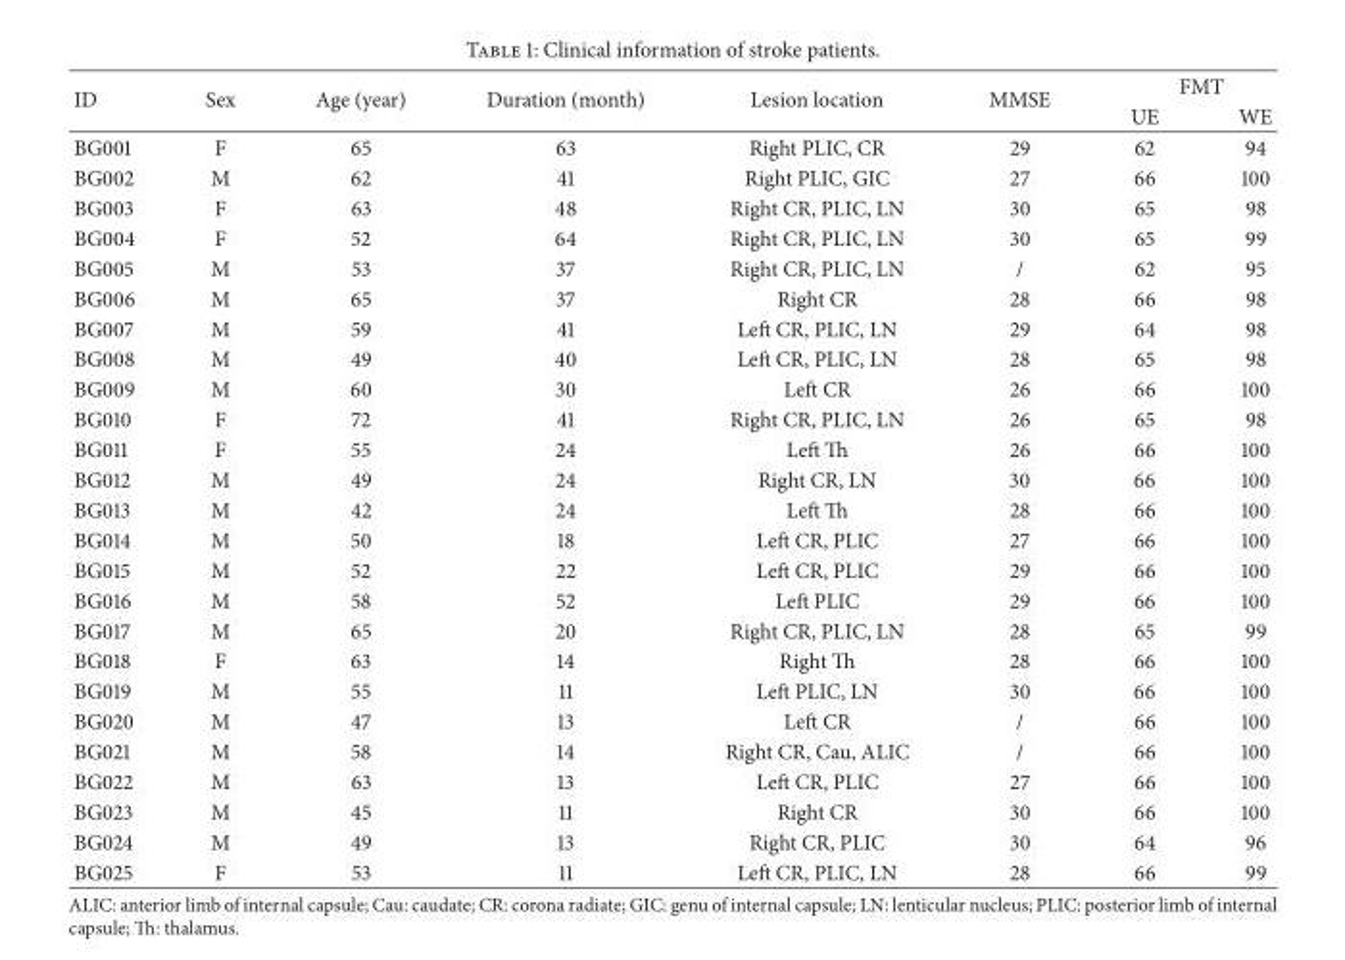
<table><thead><tr><td rowspan="2">ID</td><td rowspan="2">Sex</td><td rowspan="2">Age (year)</td><td rowspan="2">Duration (month)</td><td rowspan="2">Lesion location</td><td rowspan="2">MMSE</td><td colspan="2">FMT</td></tr><tr><td>UE</td><td>WE</td></tr></thead><tbody><tr><td>BG001</td><td>F</td><td>65</td><td>63</td><td>Right PLIC, CR</td><td>29</td><td>62</td><td>94</td></tr><tr><td>BG002</td><td>M</td><td>62</td><td>41</td><td>Right PLIC, GIC</td><td>27</td><td>66</td><td>100</td></tr><tr><td>BG003</td><td>F</td><td>63</td><td>48</td><td>Right CR, PLIC, LN</td><td>30</td><td>65</td><td>98</td></tr><tr><td>BG004</td><td>F</td><td>52</td><td>64</td><td>Right CR, PLIC, LN</td><td>30</td><td>65</td><td>99</td></tr><tr><td>BG005</td><td>M</td><td>53</td><td>37</td><td>Right CR, PLIC, LN</td><td>/</td><td>62</td><td>95</td></tr><tr><td>BG006</td><td>M</td><td>65</td><td>37</td><td>Right CR</td><td>28</td><td>66</td><td>98</td></tr><tr><td>BG007</td><td>M</td><td>59</td><td>41</td><td>Left CR, PLIC, LN</td><td>29</td><td>64</td><td>98</td></tr><tr><td>BG008</td><td>M</td><td>49</td><td>40</td><td>Left CR, PLIC, LN</td><td>28</td><td>65</td><td>98</td></tr><tr><td>BG009</td><td>M</td><td>60</td><td>30</td><td>Left CR</td><td>26</td><td>66</td><td>100</td></tr><tr><td>BG010</td><td>F</td><td>72</td><td>41</td><td>Right CR, PLIC, LN</td><td>26</td><td>65</td><td>98</td></tr><tr><td>BG011</td><td>F</td><td>55</td><td>24</td><td>Left Th</td><td>26</td><td>66</td><td>100</td></tr><tr><td>BG012</td><td>M</td><td>49</td><td>24</td><td>Right CR, LN</td><td>30</td><td>66</td><td>100</td></tr><tr><td>BG013</td><td>M</td><td>42</td><td>24</td><td>Left Th</td><td>28</td><td>66</td><td>100</td></tr><tr><td>BG014</td><td>M</td><td>50</td><td>18</td><td>Left CR, PLIC</td><td>27</td><td>66</td><td>100</td></tr><tr><td>BG015</td><td>M</td><td>52</td><td>22</td><td>Left CR, PLIC</td><td>29</td><td>66</td><td>100</td></tr><tr><td>BG016</td><td>M</td><td>58</td><td>52</td><td>Left PLIC</td><td>29</td><td>66</td><td>100</td></tr><tr><td>BG017</td><td>M</td><td>65</td><td>20</td><td>Right CR, PLIC, LN</td><td>28</td><td>65</td><td>99</td></tr><tr><td>BG018</td><td>F</td><td>63</td><td>14</td><td>Right Th</td><td>28</td><td>66</td><td>100</td></tr><tr><td>BG019</td><td>M</td><td>55</td><td>11</td><td>Left PLIC, LN</td><td>30</td><td>66</td><td>100</td></tr><tr><td>BG020</td><td>M</td><td>47</td><td>13</td><td>Left CR</td><td>/</td><td>66</td><td>100</td></tr><tr><td>BG021</td><td>M</td><td>58</td><td>14</td><td>Right CR, Cau, ALIC</td><td>/</td><td>66</td><td>100</td></tr><tr><td>BG022</td><td>M</td><td>63</td><td>13</td><td>Left CR, PLIC</td><td>27</td><td>66</td><td>100</td></tr><tr><td>BG023</td><td>M</td><td>45</td><td>11</td><td>Right CR</td><td>30</td><td>66</td><td>100</td></tr><tr><td>BG024</td><td>M</td><td>49</td><td>13</td><td>Right CR, PLIC</td><td>30</td><td>64</td><td>96</td></tr><tr><td>BG025</td><td>F</td><td>53</td><td>11</td><td>Left CR, PLIC, LN</td><td>28</td><td>66</td><td>99</td></tr></tbody></table>